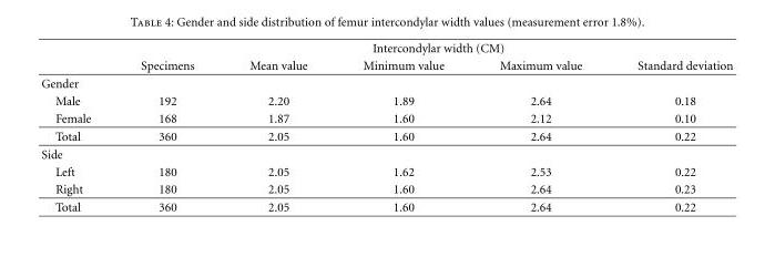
<table><thead><tr><td rowspan="2"></td><td colspan="5">Intercondylar width (CM)</td></tr><tr><td>Specimens</td><td>Mean value</td><td>Minimum value</td><td>Maximum value</td><td>Standard deviation</td></tr></thead><tbody><tr><td colspan="6">Gender</td></tr><tr><td>Male</td><td>192</td><td>2.20</td><td>1.89</td><td>2.64</td><td>0.18</td></tr><tr><td>Female</td><td>168</td><td>1.87</td><td>1.60</td><td>2.12</td><td>0.10</td></tr><tr><td>Total</td><td>360</td><td>2.05</td><td>1.60</td><td>2.64</td><td>0.22</td></tr><tr><td colspan="6">Side</td></tr><tr><td>Left</td><td>180</td><td>2.05</td><td>1.62</td><td>2.53</td><td>0.22</td></tr><tr><td>Right</td><td>180</td><td>2.05</td><td>1.60</td><td>2.64</td><td>0.23</td></tr><tr><td>Total</td><td>360</td><td>2.05</td><td>1.60</td><td>2.64</td><td>0.22</td></tr></tbody></table>